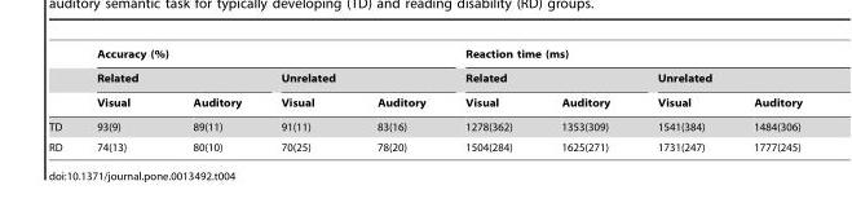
<table><thead><tr><td rowspan="3"></td><td colspan="4">Accuracy (%)</td><td colspan="4">Reaction time (ms)</td></tr><tr><td colspan="2">Related</td><td colspan="2">Unrelated</td><td colspan="2">Related</td><td colspan="2">Unrelated</td></tr><tr><td>Visual</td><td>Auditory</td><td>Visual</td><td>Auditory</td><td>Visual</td><td>Auditory</td><td>Visual</td><td>Auditory</td></tr></thead><tbody><tr><td>TD</td><td>93(9)</td><td>89(11)</td><td>91(11)</td><td>83(16)</td><td>1278(362)</td><td>1353(309)</td><td>1541(384)</td><td>1484(306)</td></tr><tr><td>RD</td><td>74(13)</td><td>80(10)</td><td>70(25)</td><td>78(20)</td><td>1504(284)</td><td>1625(271)</td><td>1731(247)</td><td>1777(245)</td></tr></tbody></table>